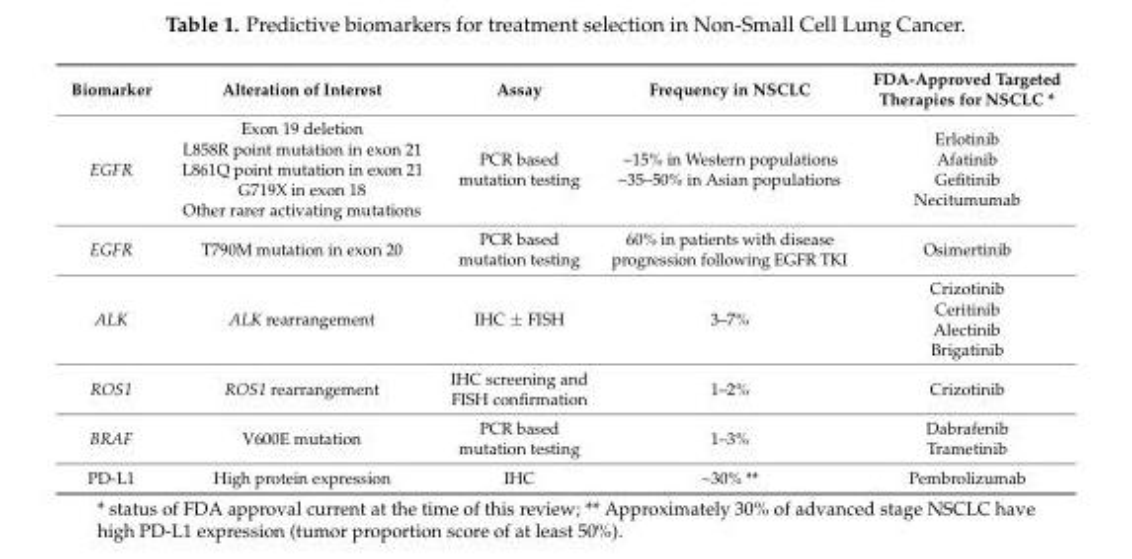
<table><thead><tr><td>Biomarker</td><td>Alteration of Interest</td><td>Assay</td><td>Frequency in NSCLC</td><td>FDA-Approved Targeted Therapies for NSCLC *</td></tr></thead><tbody><tr><td>EGFR</td><td>Exon 19 deletion L858R point mutation in exon 21 L861Q point mutation in exon 21 G719X in exon 18 Other rarer activating mutations</td><td>PCR based mutation testing</td><td>~15% in Western populations ~35–50% in Asian populations</td><td>Erlotinib Afatinib Gefitinib Necitumumab</td></tr><tr><td>EGFR</td><td>T790M mutation in exon 20</td><td>PCR based mutation testing</td><td>60% in patients with disease progression following EGFR TKI</td><td>Osimertinib</td></tr><tr><td>ALK</td><td>ALK rearrangement</td><td>IHC ± FISH</td><td>3–7%</td><td>Crizotinib Ceritinib Alectinib Brigatinib</td></tr><tr><td>ROS1</td><td>ROS1 rearrangement</td><td>IHC screening and FISH confirmation</td><td>1–2%</td><td>Crizotinib</td></tr><tr><td>BRAF</td><td>V600E mutation</td><td>PCR based mutation testing</td><td>1–3%</td><td>Dabrafenib Trametinib</td></tr><tr><td>PD-L1</td><td>High protein expression</td><td>IHC</td><td>~30% **</td><td>Pembrolizumab</td></tr></tbody></table>